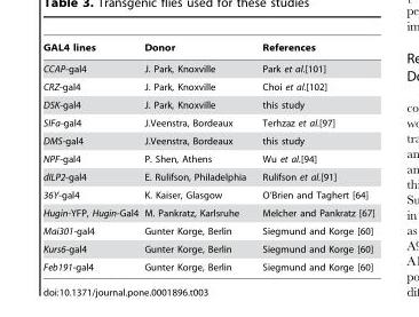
<table><thead><tr><td>GAL4 lines</td><td>Donor</td><td>References</td></tr></thead><tbody><tr><td>CCAP-gal4</td><td>J. Park, Knoxville</td><td>Park et al.[101]</td></tr><tr><td>CRZ-gal4</td><td>J. Park, Knoxville</td><td>Choi et al.[102]</td></tr><tr><td>DSK-gal4</td><td>J. Park, Knoxville</td><td>this study</td></tr><tr><td>SIFa-gal4</td><td>J.Veenstra, Bordeaux</td><td>Terhzaz et al.[97]</td></tr><tr><td>DMS-gal4</td><td>J.Veenstra, Bordeaux</td><td>this study</td></tr><tr><td>NPF-gal4</td><td>P. Shen, Athens</td><td>Wu et al.[94]</td></tr><tr><td>dILP2-gal4</td><td>E. Rulifson, Philadelphia</td><td>Rulifson et al.[91]</td></tr><tr><td>36Y-gal4</td><td>K. Kaiser, Glasgow</td><td>O’Brien and Taghert [64]</td></tr><tr><td>Hugin-YFP, Hugin-Gal4</td><td>M. Pankratz, Karlsruhe</td><td>Melcher and Pankratz [67]</td></tr><tr><td>Mai301-gal4</td><td>Gunter Korge, Berlin</td><td>Siegmund and Korge [60]</td></tr><tr><td>Kurs6-gal4</td><td>Gunter Korge, Berlin</td><td>Siegmund and Korge [60]</td></tr><tr><td>Feb191-gal4</td><td>Gunter Korge, Berlin</td><td>Siegmund and Korge [60]</td></tr></tbody></table>